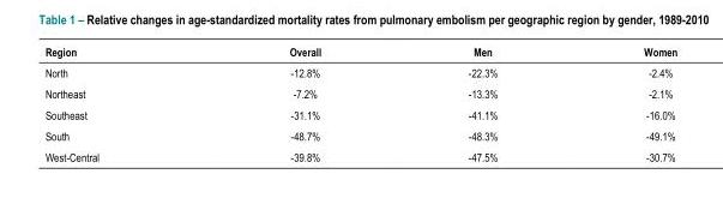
<table><thead><tr><td>Region</td><td>Overall</td><td>Men</td><td>Women</td></tr></thead><tbody><tr><td>North</td><td>-12.8%</td><td>-22.3%</td><td>-2.4%</td></tr><tr><td>Northeast</td><td>-7.2%</td><td>-13.3%</td><td>-2.1%</td></tr><tr><td>Southeast</td><td>-31.1%</td><td>-41.1%</td><td>-16.0%</td></tr><tr><td>South</td><td>-48.7%</td><td>-48.3%</td><td>-49.1%</td></tr><tr><td>West-Central</td><td>-39.8%</td><td>-47.5%</td><td>-30.7%</td></tr></tbody></table>